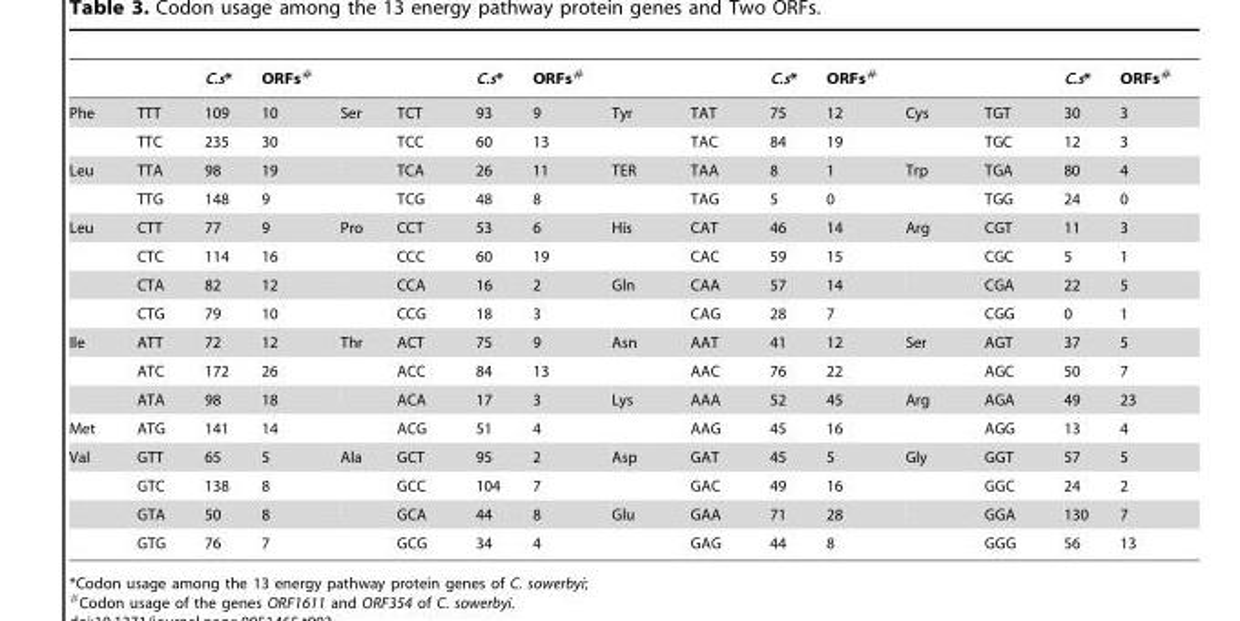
<table><thead><tr><td></td><td></td><td>C.s*</td><td>ORFs#</td><td></td><td></td><td>C.s*</td><td>ORFs#</td><td></td><td></td><td>C.s*</td><td>ORFs#</td><td></td><td></td><td>C.s*</td><td>ORFs#</td></tr></thead><tbody><tr><td rowspan="2">Phe</td><td>TTT</td><td>109</td><td>10</td><td>Ser</td><td>TCT</td><td>93</td><td>9</td><td>Tyr</td><td>TAT</td><td>75</td><td>12</td><td>Cys</td><td>TGT</td><td>30</td><td>3</td></tr><tr><td>TTC</td><td>235</td><td>30</td><td></td><td>TCC</td><td>60</td><td>13</td><td></td><td>TAC</td><td>84</td><td>19</td><td></td><td>TGC</td><td>12</td><td>3</td></tr><tr><td rowspan="2">Leu</td><td>TTA</td><td>98</td><td>19</td><td></td><td>TCA</td><td>26</td><td>11</td><td>TER</td><td>TAA</td><td>8</td><td>1</td><td>Trp</td><td>TGA</td><td>80</td><td>4</td></tr><tr><td>TTG</td><td>148</td><td>9</td><td></td><td>TCG</td><td>48</td><td>8</td><td></td><td>TAG</td><td>5</td><td>0</td><td></td><td>TGG</td><td>24</td><td>0</td></tr><tr><td rowspan="4">Leu</td><td>CTT</td><td>77</td><td>9</td><td>Pro</td><td>CCT</td><td>53</td><td>6</td><td>His</td><td>CAT</td><td>46</td><td>14</td><td>Arg</td><td>CGT</td><td>11</td><td>3</td></tr><tr><td>CTC</td><td>114</td><td>16</td><td></td><td>CCC</td><td>60</td><td>19</td><td></td><td>CAC</td><td>59</td><td>15</td><td></td><td>CGC</td><td>5</td><td>1</td></tr><tr><td>CTA</td><td>82</td><td>12</td><td></td><td>CCA</td><td>16</td><td>2</td><td>Gln</td><td>CAA</td><td>57</td><td>14</td><td></td><td>CGA</td><td>22</td><td>5</td></tr><tr><td>CTG</td><td>79</td><td>10</td><td></td><td>CCG</td><td>18</td><td>3</td><td></td><td>CAG</td><td>28</td><td>7</td><td></td><td>CGG</td><td>0</td><td>1</td></tr><tr><td rowspan="3">Ile</td><td>ATT</td><td>72</td><td>12</td><td>Thr</td><td>ACT</td><td>75</td><td>9</td><td>Asn</td><td>AAT</td><td>41</td><td>12</td><td>Ser</td><td>AGT</td><td>37</td><td>5</td></tr><tr><td>ATC</td><td>172</td><td>26</td><td></td><td>ACC</td><td>84</td><td>13</td><td></td><td>AAC</td><td>76</td><td>22</td><td></td><td>AGC</td><td>50</td><td>7</td></tr><tr><td>ATA</td><td>98</td><td>18</td><td></td><td>ACA</td><td>17</td><td>3</td><td>Lys</td><td>AAA</td><td>52</td><td>45</td><td>Arg</td><td>AGA</td><td>49</td><td>23</td></tr><tr><td>Met</td><td>ATG</td><td>141</td><td>14</td><td></td><td>ACG</td><td>51</td><td>4</td><td></td><td>AAG</td><td>45</td><td>16</td><td></td><td>AGG</td><td>13</td><td>4</td></tr><tr><td rowspan="4">Val</td><td>GTT</td><td>65</td><td>5</td><td>Ala</td><td>GCT</td><td>95</td><td>2</td><td>Asp</td><td>GAT</td><td>45</td><td>5</td><td>Gly</td><td>GGT</td><td>57</td><td>5</td></tr><tr><td>GTC</td><td>138</td><td>8</td><td></td><td>GCC</td><td>104</td><td>7</td><td></td><td>GAC</td><td>49</td><td>16</td><td></td><td>GGC</td><td>24</td><td>2</td></tr><tr><td>GTA</td><td>50</td><td>8</td><td></td><td>GCA</td><td>44</td><td>8</td><td>Glu</td><td>GAA</td><td>71</td><td>28</td><td></td><td>GGA</td><td>130</td><td>7</td></tr><tr><td>GTG</td><td>76</td><td>7</td><td></td><td>GCG</td><td>34</td><td>4</td><td></td><td>GAG</td><td>44</td><td>8</td><td></td><td>GGG</td><td>56</td><td>13</td></tr></tbody></table>